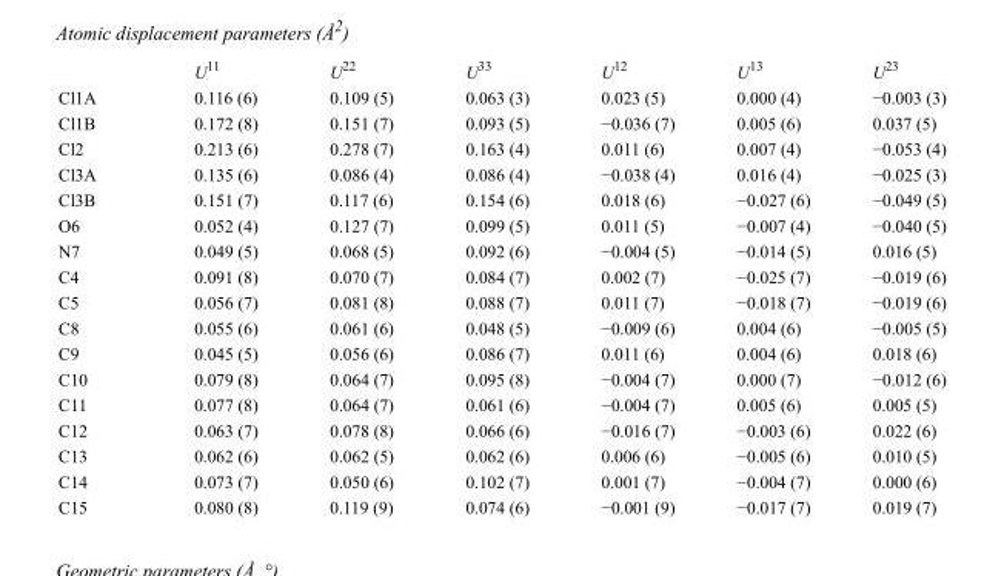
<table><thead><tr><td></td><td>U<sup>11</sup></td><td>U<sup>22</sup></td><td>U<sup>33</sup></td><td>U<sup>12</sup></td><td>U<sup>13</sup></td><td>U<sup>23</sup></td></tr></thead><tbody><tr><td>Cl1A</td><td>0.116 (6)</td><td>0.109 (5)</td><td>0.063 (3)</td><td>0.023 (5)</td><td>0.000 (4)</td><td>−0.003 (3)</td></tr><tr><td>Cl1B</td><td>0.172 (8)</td><td>0.151 (7)</td><td>0.093 (5)</td><td>−0.036 (7)</td><td>0.005 (6)</td><td>0.037 (5)</td></tr><tr><td>Cl2</td><td>0.213 (6)</td><td>0.278 (7)</td><td>0.163 (4)</td><td>0.011 (6)</td><td>0.007 (4)</td><td>−0.053 (4)</td></tr><tr><td>Cl3A</td><td>0.135 (6)</td><td>0.086 (4)</td><td>0.086 (4)</td><td>−0.038 (4)</td><td>0.016 (4)</td><td>−0.025 (3)</td></tr><tr><td>Cl3B</td><td>0.151 (7)</td><td>0.117 (6)</td><td>0.154 (6)</td><td>0.018 (6)</td><td>−0.027 (6)</td><td>−0.049 (5)</td></tr><tr><td>O6</td><td>0.052 (4)</td><td>0.127 (7)</td><td>0.099 (5)</td><td>0.011 (5)</td><td>−0.007 (4)</td><td>−0.040 (5)</td></tr><tr><td>N7</td><td>0.049 (5)</td><td>0.068 (5)</td><td>0.092 (6)</td><td>−0.004 (5)</td><td>−0.014 (5)</td><td>0.016 (5)</td></tr><tr><td>C4</td><td>0.091 (8)</td><td>0.070 (7)</td><td>0.084 (7)</td><td>0.002 (7)</td><td>−0.025 (7)</td><td>−0.019 (6)</td></tr><tr><td>C5</td><td>0.056 (7)</td><td>0.081 (8)</td><td>0.088 (7)</td><td>0.011 (7)</td><td>−0.018 (7)</td><td>−0.019 (6)</td></tr><tr><td>C8</td><td>0.055 (6)</td><td>0.061 (6)</td><td>0.048 (5)</td><td>−0.009 (6)</td><td>0.004 (6)</td><td>−0.005 (5)</td></tr><tr><td>C9</td><td>0.045 (5)</td><td>0.056 (6)</td><td>0.086 (7)</td><td>0.011 (6)</td><td>0.004 (6)</td><td>0.018 (6)</td></tr><tr><td>C10</td><td>0.079 (8)</td><td>0.064 (7)</td><td>0.095 (8)</td><td>−0.004 (7)</td><td>0.000 (7)</td><td>−0.012 (6)</td></tr><tr><td>C11</td><td>0.077 (8)</td><td>0.064 (7)</td><td>0.061 (6)</td><td>−0.004 (7)</td><td>0.005 (6)</td><td>0.005 (5)</td></tr><tr><td>C12</td><td>0.063 (7)</td><td>0.078 (8)</td><td>0.066 (6)</td><td>−0.016 (7)</td><td>−0.003 (6)</td><td>0.022 (6)</td></tr><tr><td>C13</td><td>0.062 (6)</td><td>0.062 (5)</td><td>0.062 (6)</td><td>0.006 (6)</td><td>−0.005 (6)</td><td>0.010 (5)</td></tr><tr><td>C14</td><td>0.073 (7)</td><td>0.050 (6)</td><td>0.102 (7)</td><td>0.001 (7)</td><td>−0.004 (7)</td><td>0.000 (6)</td></tr><tr><td>C15</td><td>0.080 (8)</td><td>0.119 (9)</td><td>0.074 (6)</td><td>−0.001 (9)</td><td>−0.017 (7)</td><td>0.019 (7)</td></tr></tbody></table>